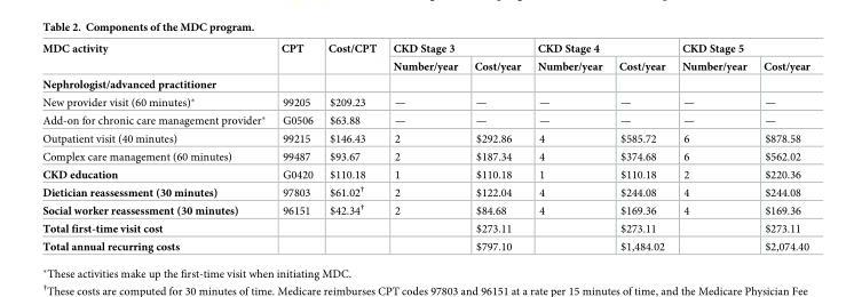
<table><thead><tr><td rowspan="2">MDC activity</td><td rowspan="2">CPT</td><td rowspan="2">Cost/CPT</td><td colspan="2">CKD Stage 3</td><td colspan="2">CKD Stage 4</td><td colspan="2">CKD Stage 5</td></tr><tr><td>Number/year</td><td>Cost/year</td><td>Number/year</td><td>Cost/year</td><td>Number/year</td><td>Cost/year</td></tr></thead><tbody><tr><td colspan="9">Nephrologist/advanced practitioner</td></tr><tr><td>New provider visit (60 minutes)*</td><td>99205</td><td>$209.23</td><td>—</td><td>—</td><td>—</td><td>—</td><td>—</td><td>—</td></tr><tr><td>Add-on for chronic care management provider*</td><td>G0506</td><td>$63.88</td><td>—</td><td>—</td><td>—</td><td>—</td><td>—</td><td>—</td></tr><tr><td>Outpatient visit (40 minutes)</td><td>99215</td><td>$146.43</td><td>2</td><td>$292.86</td><td>4</td><td>$585.72</td><td>6</td><td>$878.58</td></tr><tr><td>Complex care management (60 minutes)</td><td>99487</td><td>$93.67</td><td>2</td><td>$187.34</td><td>4</td><td>$374.68</td><td>6</td><td>$562.02</td></tr><tr><td>CKD education</td><td>G0420</td><td>$110.18</td><td>1</td><td>$110.18</td><td>1</td><td>$110.18</td><td>2</td><td>$220.36</td></tr><tr><td>Dietician reassessment (30 minutes)</td><td>97803</td><td>$61.02<sup>†</sup></td><td>2</td><td>$122.04</td><td>4</td><td>$244.08</td><td>4</td><td>$244.08</td></tr><tr><td>Social worker reassessment (30 minutes)</td><td>96151</td><td>$42.34<sup>†</sup></td><td>2</td><td>$84.68</td><td>4</td><td>$169.36</td><td>4</td><td>$169.36</td></tr><tr><td>Total first-time visit cost</td><td></td><td></td><td></td><td>$273.11</td><td></td><td>$273.11</td><td></td><td>$273.11</td></tr><tr><td>Total annual recurring costs</td><td></td><td></td><td></td><td>$797.10</td><td></td><td>$1,484.02</td><td></td><td>$2,074.40</td></tr></tbody></table>